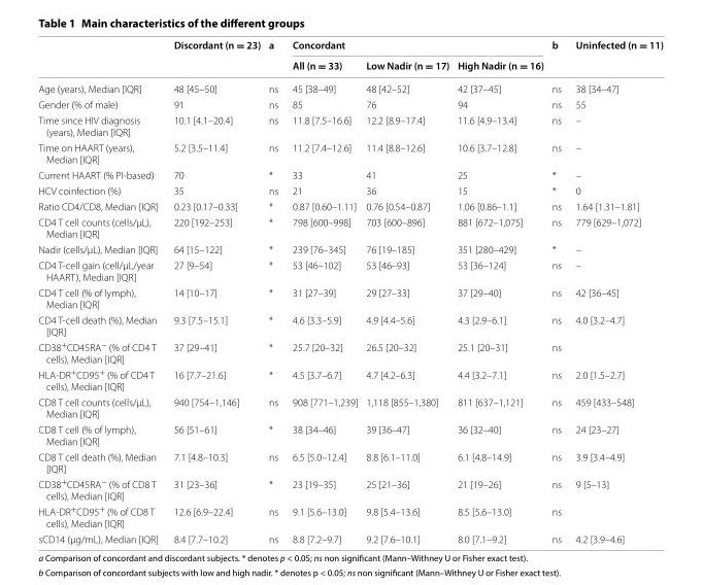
<table><thead><tr><td rowspan="2"></td><td rowspan="2">Discordant (n = 23)</td><td rowspan="2">a</td><td colspan="3">Concordant</td><td rowspan="2">b</td><td rowspan="2">Uninfected (n = 11)</td></tr><tr><td>All (n = 33)</td><td>Low Nadir (n = 17)</td><td>High Nadir (n = 16)</td></tr></thead><tbody><tr><td>Age (years), Median [IQR]</td><td>48 [45–50]</td><td>ns</td><td>45 [38–49]</td><td>48 [42–52]</td><td>42 [37–45]</td><td>ns</td><td>38 [34–47]</td></tr><tr><td>Gender (% of male)</td><td>91</td><td>ns</td><td>85</td><td>76</td><td>94</td><td>ns</td><td>55</td></tr><tr><td>Time since HIV diagnosis (years), Median [IQR]</td><td>10.1 [4.1–20.4]</td><td>ns</td><td>11.8 [7.5–16.6]</td><td>12.2 [8.9–17.4]</td><td>11.6 [4.9–13.4]</td><td>ns</td><td>–</td></tr><tr><td>Time on HAART (years), Median [IQR]</td><td>5.2 [3.5–11.4]</td><td>ns</td><td>11.2 [7.4–12.6]</td><td>11.4 [8.8–12.6]</td><td>10.6 [3.7–12.8]</td><td>ns</td><td>–</td></tr><tr><td>Current HAART (% PI‑based)</td><td>70</td><td>*</td><td>33</td><td>41</td><td>25</td><td>*</td><td>–</td></tr><tr><td>HCV coinfection (%)</td><td>35</td><td>ns</td><td>21</td><td>36</td><td>15</td><td>*</td><td>0</td></tr><tr><td>Ratio CD4/CD8, Median [IQR]</td><td>0.23 [0.17–0.33]</td><td>*</td><td>0.87 [0.60–1.11]</td><td>0.76 [0.54–0.87]</td><td>1.06 [0.86–1.1]</td><td>ns</td><td>1.64 [1.31–1.81]</td></tr><tr><td>CD4 T cell counts (cells/µL), Median [IQR]</td><td>220 [192–253]</td><td>*</td><td>798 [600–998]</td><td>703 [600–896]</td><td>881 [672–1,075]</td><td>ns</td><td>779 [629–1,072]</td></tr><tr><td>Nadir (cells/µL), Median [IQR]</td><td>64 [15–122]</td><td>*</td><td>239 [76–345]</td><td>76 [19–185]</td><td>351 [280–429]</td><td>*</td><td>–</td></tr><tr><td>CD4 T‑cell gain (cell/µL/year HAART), Median [IQR]</td><td>27 [9–54]</td><td>*</td><td>53 [46–102]</td><td>53 [46–93]</td><td>53 [36–124]</td><td>ns</td><td>–</td></tr><tr><td>CD4 T cell (% of lymph), Median [IQR]</td><td>14 [10–17]</td><td>*</td><td>31 [27–39]</td><td>29 [27–33]</td><td>37 [29–40]</td><td>ns</td><td>42 [36–45]</td></tr><tr><td>CD4 T‑cell death (%), Median [IQR]</td><td>9.3 [7.5–15.1]</td><td>*</td><td>4.6 [3.3–5.9]</td><td>4.9 [4.4–5.6]</td><td>4.3 [2.9–6.1]</td><td>ns</td><td>4.0 [3.2–4.7]</td></tr><tr><td>CD38<sup>+</sup>CD45RA<sup>−</sup> (% of CD4 T cells), Median [IQR]</td><td>37 [29–41]</td><td>*</td><td>25.7 [20–32]</td><td>26.5 [20–32]</td><td>25.1 [20–31]</td><td>ns</td><td></td></tr><tr><td>HLA‑DR<sup>+</sup>CD95<sup>+</sup> (% of CD4 T cells), Median [IQR]</td><td>16 [7.7–21.6]</td><td>*</td><td>4.5 [3.7–6.7]</td><td>4.7 [4.2–6.3]</td><td>4.4 [3.2–7.1]</td><td>ns</td><td>2.0 [1.5–2.7]</td></tr><tr><td>CD8 T cell counts (cells/µL), Median [IQR]</td><td>940 [754–1,146]</td><td>ns</td><td>908 [771–1,239]</td><td>1,118 [855–1,380]</td><td>811 [637–1,121]</td><td>ns</td><td>459 [433–548]</td></tr><tr><td>CD8 T cell (% of lymph), Median [IQR]</td><td>56 [51–61]</td><td>*</td><td>38 [34–46]</td><td>39 [36–47]</td><td>36 [32–40]</td><td>ns</td><td>24 [23–27]</td></tr><tr><td>CD8 T cell death (%), Median [IQR]</td><td>7.1 [4.8–10.3]</td><td>ns</td><td>6.5 [5.0–12.4]</td><td>8.8 [6.1–11.0]</td><td>6.1 [4.8–14.9]</td><td>ns</td><td>3.9 [3.4–4.9]</td></tr><tr><td>CD38<sup>+</sup>CD45RA<sup>−</sup> (% of CD8 T cells), Median [IQR]</td><td>31 [23–36]</td><td>*</td><td>23 [19–35]</td><td>25 [21–36]</td><td>21 [19–26]</td><td>ns</td><td>9 [5–13]</td></tr><tr><td>HLA‑DR<sup>+</sup>CD95<sup>+</sup> (% of CD8 T cells), Median [IQR]</td><td>12.6 [6.9–22.4]</td><td>ns</td><td>9.1 [5.6–13.0]</td><td>9.8 [5.4–13.6]</td><td>8.5 [5.6–13.0]</td><td>ns</td><td></td></tr><tr><td>sCD14 (µg/mL), Median [IQR]</td><td>8.4 [7.7–10.2]</td><td>ns</td><td>8.8 [7.2–9.7]</td><td>9.2 [7.6–10.1]</td><td>8.0 [7.1–9.2]</td><td>ns</td><td>4.2 [3.9–4.6]</td></tr></tbody></table>